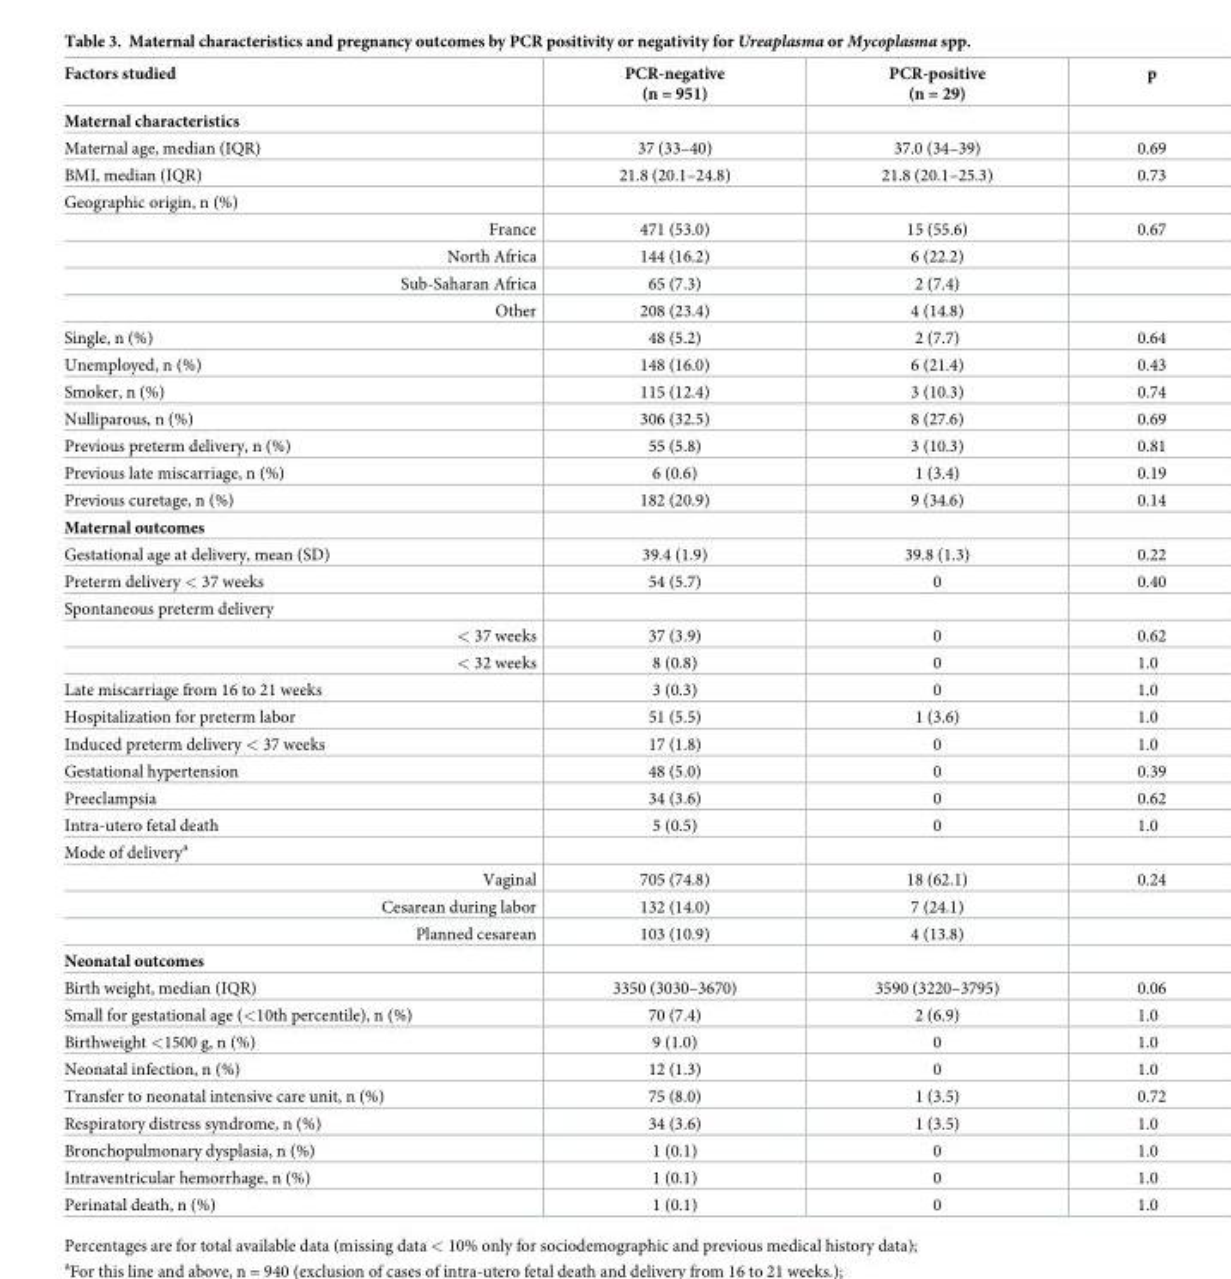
<table><thead><tr><td>Factors studied</td><td>PCR-negative (n = 951)</td><td>PCR-positive (n = 29)</td><td>p</td></tr></thead><tbody><tr><td colspan="4">Maternal characteristics</td></tr><tr><td>Maternal age, median (IQR)</td><td>37 (33–40)</td><td>37.0 (34–39)</td><td>0.69</td></tr><tr><td>BMI, median (IQR)</td><td>21.8 (20.1–24.8)</td><td>21.8 (20.1–25.3)</td><td>0.73</td></tr><tr><td colspan="4">Geographic origin, n (%)</td></tr><tr><td>France</td><td>471 (53.0)</td><td>15 (55.6)</td><td>0.67</td></tr><tr><td>North Africa</td><td>144 (16.2)</td><td>6 (22.2)</td><td></td></tr><tr><td>Sub-Saharan Africa</td><td>65 (7.3)</td><td>2 (7.4)</td><td></td></tr><tr><td>Other</td><td>208 (23.4)</td><td>4 (14.8)</td><td></td></tr><tr><td>Single, n (%)</td><td>48 (5.2)</td><td>2 (7.7)</td><td>0.64</td></tr><tr><td>Unemployed, n (%)</td><td>148 (16.0)</td><td>6 (21.4)</td><td>0.43</td></tr><tr><td>Smoker, n (%)</td><td>115 (12.4)</td><td>3 (10.3)</td><td>0.74</td></tr><tr><td>Nulliparous, n (%)</td><td>306 (32.5)</td><td>8 (27.6)</td><td>0.69</td></tr><tr><td>Previous preterm delivery, n (%)</td><td>55 (5.8)</td><td>3 (10.3)</td><td>0.81</td></tr><tr><td>Previous late miscarriage, n (%)</td><td>6 (0.6)</td><td>1 (3.4)</td><td>0.19</td></tr><tr><td>Previous curetage, n (%)</td><td>182 (20.9)</td><td>9 (34.6)</td><td>0.14</td></tr><tr><td colspan="4">Maternal outcomes</td></tr><tr><td>Gestational age at delivery, mean (SD)</td><td>39.4 (1.9)</td><td>39.8 (1.3)</td><td>0.22</td></tr><tr><td>Preterm delivery &lt; 37 weeks</td><td>54 (5.7)</td><td>0</td><td>0.40</td></tr><tr><td colspan="4">Spontaneous preterm delivery</td></tr><tr><td>&lt; 37 weeks</td><td>37 (3.9)</td><td>0</td><td>0.62</td></tr><tr><td>&lt; 32 weeks</td><td>8 (0.8)</td><td>0</td><td>1.0</td></tr><tr><td>Late miscarriage from 16 to 21 weeks</td><td>3 (0.3)</td><td>0</td><td>1.0</td></tr><tr><td>Hospitalization for preterm labor</td><td>51 (5.5)</td><td>1 (3.6)</td><td>1.0</td></tr><tr><td>Induced preterm delivery &lt; 37 weeks</td><td>17 (1.8)</td><td>0</td><td>1.0</td></tr><tr><td>Gestational hypertension</td><td>48 (5.0)</td><td>0</td><td>0.39</td></tr><tr><td>Preeclampsia</td><td>34 (3.6)</td><td>0</td><td>0.62</td></tr><tr><td>Intra-utero fetal death</td><td>5 (0.5)</td><td>0</td><td>1.0</td></tr><tr><td colspan="4">Mode of delivery<sup>a</sup></td></tr><tr><td>Vaginal</td><td>705 (74.8)</td><td>18 (62.1)</td><td>0.24</td></tr><tr><td>Cesarean during labor</td><td>132 (14.0)</td><td>7 (24.1)</td><td></td></tr><tr><td>Planned cesarean</td><td>103 (10.9)</td><td>4 (13.8)</td><td></td></tr><tr><td colspan="4">Neonatal outcomes</td></tr><tr><td>Birth weight, median (IQR)</td><td>3350 (3030–3670)</td><td>3590 (3220–3795)</td><td>0.06</td></tr><tr><td>Small for gestational age (&lt;10th percentile), n (%)</td><td>70 (7.4)</td><td>2 (6.9)</td><td>1.0</td></tr><tr><td>Birthweight &lt;1500 g, n (%)</td><td>9 (1.0)</td><td>0</td><td>1.0</td></tr><tr><td>Neonatal infection, n (%)</td><td>12 (1.3)</td><td>0</td><td>1.0</td></tr><tr><td>Transfer to neonatal intensive care unit, n (%)</td><td>75 (8.0)</td><td>1 (3.5)</td><td>0.72</td></tr><tr><td>Respiratory distress syndrome, n (%)</td><td>34 (3.6)</td><td>1 (3.5)</td><td>1.0</td></tr><tr><td>Bronchopulmonary dysplasia, n (%)</td><td>1 (0.1)</td><td>0</td><td>1.0</td></tr><tr><td>Intraventricular hemorrhage, n (%)</td><td>1 (0.1)</td><td>0</td><td>1.0</td></tr><tr><td>Perinatal death, n (%)</td><td>1 (0.1)</td><td>0</td><td>1.0</td></tr></tbody></table>